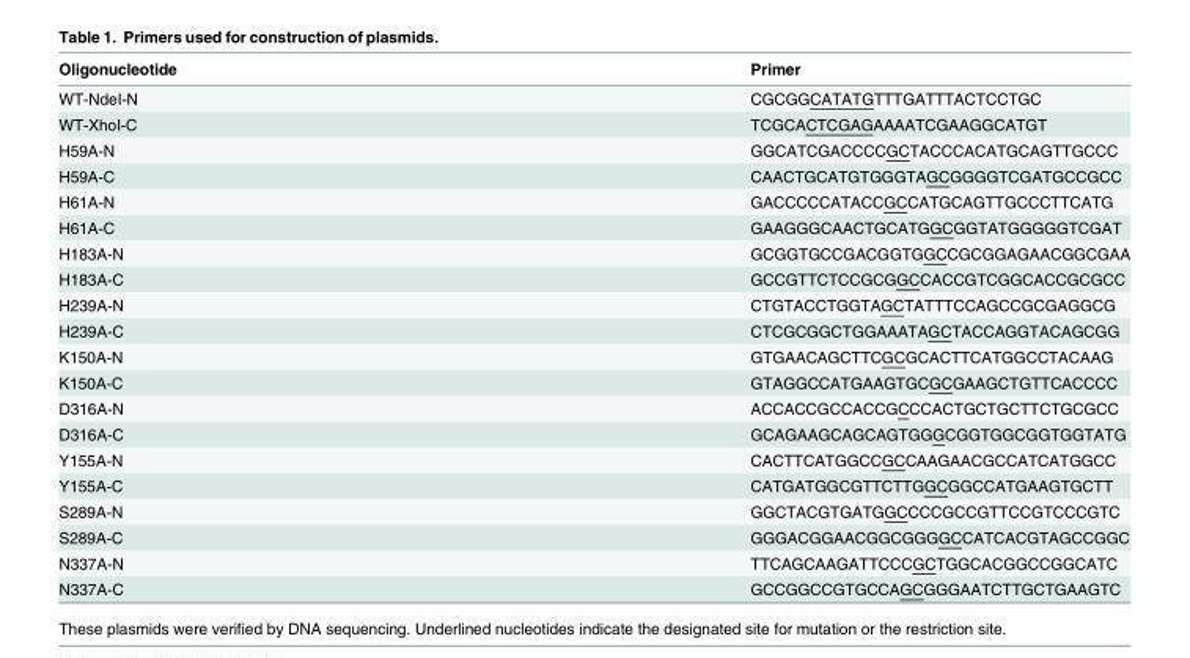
<table><thead><tr><td>Oligonucleotide</td><td>Primer</td></tr></thead><tbody><tr><td>WT-NdeI-N</td><td>CGCGGCATATGTTTGATTTACTCCTGC</td></tr><tr><td>WT-XhoI-C</td><td>TCGCACTCGAGAAAATCGAAGGCATGT</td></tr><tr><td>H59A-N</td><td>GGCATCGACCCCGCTACCCACATGCAGTTGCCC</td></tr><tr><td>H59A-C</td><td>CAACTGCATGTGGGTAGCGGGGTCGATGCCGCC</td></tr><tr><td>H61A-N</td><td>GACCCCCATACCGCCATGCAGTTGCCCTTCATG</td></tr><tr><td>H61A-C</td><td>GAAGGGCAACTGCATGGCGGTATGGGGGTCGAT</td></tr><tr><td>H183A-N</td><td>GCGGTGCCGACGGTGGCCGCGGAGAACGGCGAA</td></tr><tr><td>H183A-C</td><td>GCCGTTCTCCGCGGCCACCGTCGGCACCGCGCC</td></tr><tr><td>H239A-N</td><td>CTGTACCTGGTAGCTATTTCCAGCCGCGAGGCG</td></tr><tr><td>H239A-C</td><td>CTCGCGGCTGGAAATAGCTACCAGGTACAGCGG</td></tr><tr><td>K150A-N</td><td>GTGAACAGCTTCGCGCACTTCATGGCCTACAAG</td></tr><tr><td>K150A-C</td><td>GTAGGCCATGAAGTGCGCGAAGCTGTTCACCCC</td></tr><tr><td>D316A-N</td><td>ACCACCGCCACCGCCCACTGCTGCTTCTGCGCC</td></tr><tr><td>D316A-C</td><td>GCAGAAGCAGCAGTGGGCGGTGGCGGTGGTATG</td></tr><tr><td>Y155A-N</td><td>CACTTCATGGCCGCCAAGAACGCCATCATGGCC</td></tr><tr><td>Y155A-C</td><td>CATGATGGCGTTCTTGGCGGCCATGAAGTGCTT</td></tr><tr><td>S289A-N</td><td>GGCTACGTGATGGCCCCGCCGTTCCGTCCCGTC</td></tr><tr><td>S289A-C</td><td>GGGACGGAACGGCGGGGCCATCACGTAGCCGGC</td></tr><tr><td>N337A-N</td><td>TTCAGCAAGATTCCCGCTGGCACGGCCGGCATC</td></tr><tr><td>N337A-C</td><td>GCCGGCCGTGCCAGCGGGAATCTTGCTGAAGTC</td></tr></tbody></table>